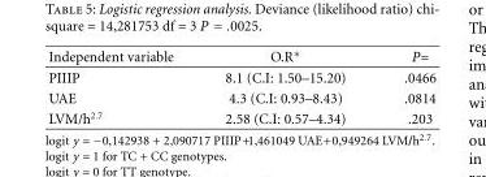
<table><thead><tr><td>Independent variable</td><td>O.R∗</td><td>P=</td></tr></thead><tbody><tr><td>PIIIP</td><td>8.1 (C.I: 1.50–15.20)</td><td>.0466</td></tr><tr><td>UAE</td><td>4.3 (C.I: 0.93–8.43)</td><td>.0814</td></tr><tr><td>LVM/h<sup>2.7</sup></td><td>2.58 (C.I: 0.57–4.34)</td><td>.203</td></tr></tbody></table>